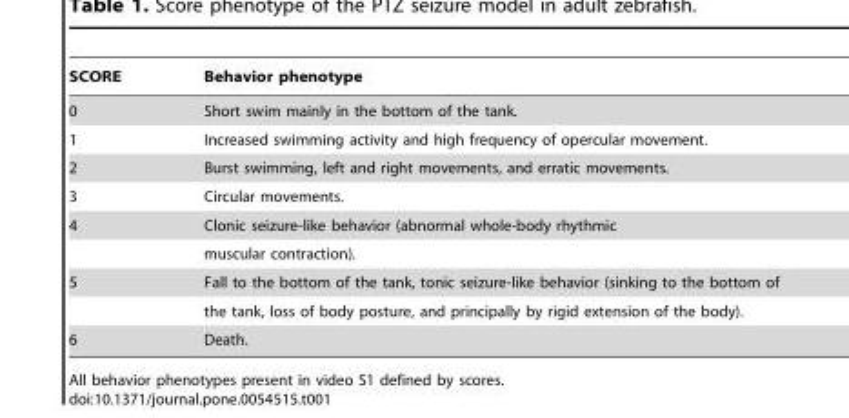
<table><thead><tr><td>SCORE</td><td>Behavior phenotype</td></tr></thead><tbody><tr><td>0</td><td>Short swim mainly in the bottom of the tank.</td></tr><tr><td>1</td><td>Increased swimming activity and high frequency of opercular movement.</td></tr><tr><td>2</td><td>Burst swimming, left and right movements, and erratic movements.</td></tr><tr><td>3</td><td>Circular movements.</td></tr><tr><td rowspan="2">4</td><td>Clonic seizure-like behavior (abnormal whole-body rhythmic</td></tr><tr><td>muscular contraction).</td></tr><tr><td rowspan="2">5</td><td>Fall to the bottom of the tank, tonic seizure-like behavior (sinking to the bottom of</td></tr><tr><td>the tank, loss of body posture, and principally by rigid extension of the body).</td></tr><tr><td>6</td><td>Death.</td></tr></tbody></table>